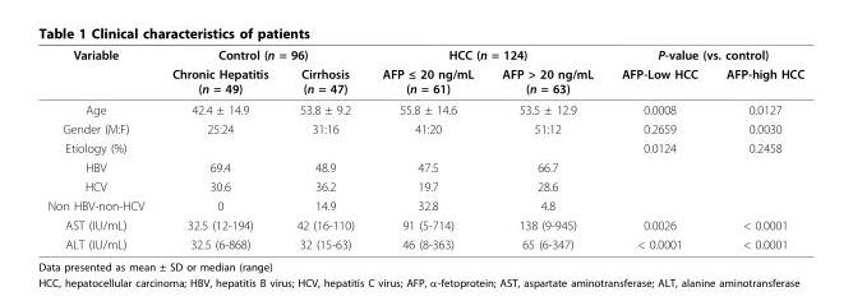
<table><thead><tr><td rowspan="2">Variable</td><td colspan="2">Control (n = 96)</td><td colspan="2">HCC (n = 124)</td><td colspan="2">P-value (vs. control)</td></tr><tr><td>Chronic Hepatitis (n = 49)</td><td>Cirrhosis (n = 47)</td><td>AFP ≤ 20 ng/mL (n = 61)</td><td>AFP &gt; 20 ng/mL (n = 63)</td><td>AFP-Low HCC</td><td>AFP-high HCC</td></tr></thead><tbody><tr><td>Age</td><td>42.4 ± 14.9</td><td>53.8 ± 9.2</td><td>55.8 ± 14.6</td><td>53.5 ± 12.9</td><td>0.0008</td><td>0.0127</td></tr><tr><td>Gender (M:F)</td><td>25:24</td><td>31:16</td><td>41:20</td><td>51:12</td><td>0.2659</td><td>0.0030</td></tr><tr><td>Etiology (%)</td><td></td><td></td><td></td><td></td><td>0.0124</td><td>0.2458</td></tr><tr><td>HBV</td><td>69.4</td><td>48.9</td><td>47.5</td><td>66.7</td><td></td><td></td></tr><tr><td>HCV</td><td>30.6</td><td>36.2</td><td>19.7</td><td>28.6</td><td></td><td></td></tr><tr><td>Non HBV-non-HCV</td><td>0</td><td>14.9</td><td>32.8</td><td>4.8</td><td></td><td></td></tr><tr><td>AST (IU/mL)</td><td>32.5 (12-194)</td><td>42 (16-110)</td><td>91 (5-714)</td><td>138 (9-945)</td><td>0.0026</td><td>&lt; 0.0001</td></tr><tr><td>ALT (IU/mL)</td><td>32.5 (6-868)</td><td>32 (15-63)</td><td>46 (8-363)</td><td>65 (6-347)</td><td>&lt; 0.0001</td><td>&lt; 0.0001</td></tr></tbody></table>